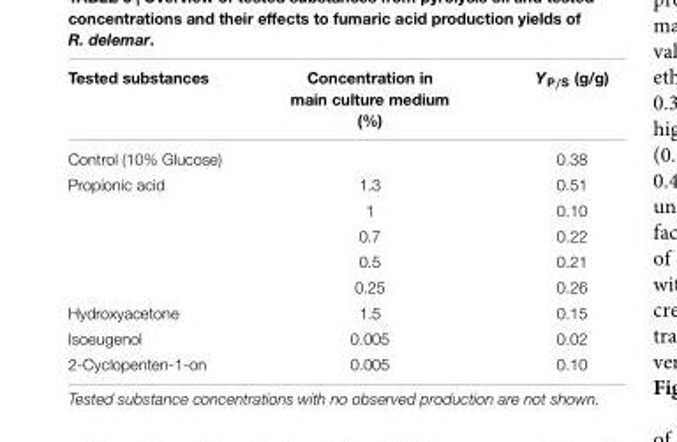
<table><thead><tr><td>Tested substances</td><td>Concentration in main culture medium (%)</td><td>Y<sub>P/S</sub> (g/g)</td></tr></thead><tbody><tr><td>Control (10% Glucose)</td><td></td><td>0.38</td></tr><tr><td rowspan="5">Propionic acid</td><td>1.3</td><td>0.51</td></tr><tr><td>1</td><td>0.10</td></tr><tr><td>0.7</td><td>0.22</td></tr><tr><td>0.5</td><td>0.21</td></tr><tr><td>0.25</td><td>0.26</td></tr><tr><td>Hydroxyacetone</td><td>1.5</td><td>0.15</td></tr><tr><td>Isoeugenol</td><td>0.005</td><td>0.02</td></tr><tr><td>2-Cyclopenten-1-on</td><td>0.005</td><td>0.10</td></tr></tbody></table>